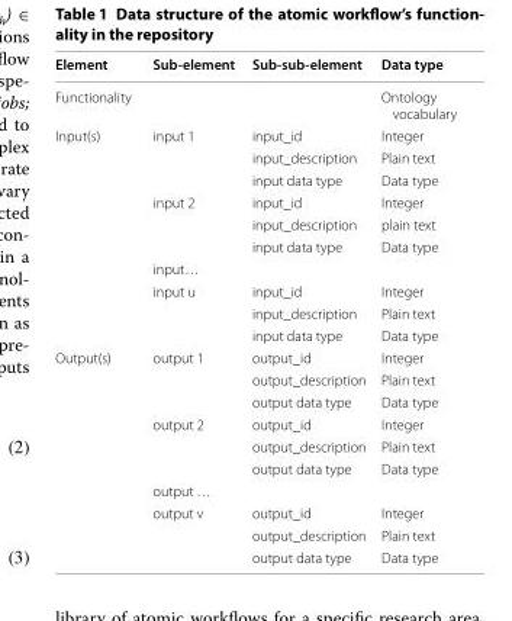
<table><thead><tr><td>Element</td><td>Sub‑element</td><td>Sub‑sub‑element</td><td>Data type</td></tr></thead><tbody><tr><td>Functionality</td><td></td><td></td><td>Ontology vocabulary</td></tr><tr><td rowspan="10">Input(s)</td><td>input 1</td><td>input_id</td><td>Integer</td></tr><tr><td></td><td>input_description</td><td>Plain text</td></tr><tr><td></td><td>input data type</td><td>Data type</td></tr><tr><td>input 2</td><td>input_id</td><td>Integer</td></tr><tr><td></td><td>input_description</td><td>plain text</td></tr><tr><td></td><td>input data type</td><td>Data type</td></tr><tr><td>input…</td><td></td><td></td></tr><tr><td>input u</td><td>input_id</td><td>Integer</td></tr><tr><td></td><td>input_description</td><td>Plain text</td></tr><tr><td></td><td>input data type</td><td>Data type</td></tr><tr><td rowspan="10">Output(s)</td><td>output 1</td><td>output_id</td><td>Integer</td></tr><tr><td></td><td>output_description</td><td>Plain text</td></tr><tr><td></td><td>output data type</td><td>Data type</td></tr><tr><td>output 2</td><td>output_id</td><td>Integer</td></tr><tr><td></td><td>output_description</td><td>Plain text</td></tr><tr><td></td><td>output data type</td><td>Data type</td></tr><tr><td>output …</td><td></td><td></td></tr><tr><td>output v</td><td>output_id</td><td>Integer</td></tr><tr><td></td><td>output_description</td><td>Plain text</td></tr><tr><td></td><td>output data type</td><td>Data type</td></tr></tbody></table>